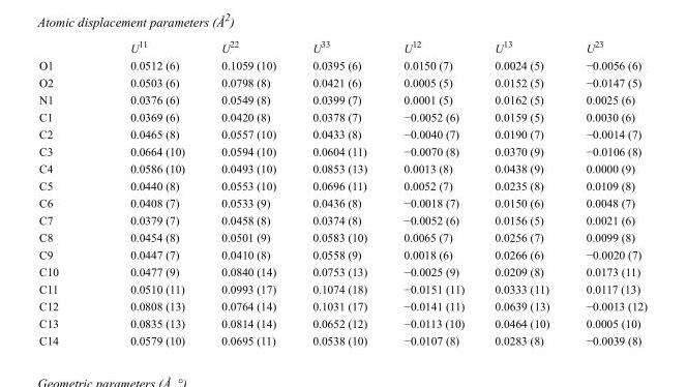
<table><thead><tr><td></td><td>U<sup>11</sup></td><td>U<sup>22</sup></td><td>U<sup>33</sup></td><td>U<sup>12</sup></td><td>U<sup>13</sup></td><td>U<sup>23</sup></td></tr></thead><tbody><tr><td>O1</td><td>0.0512 (6)</td><td>0.1059 (10)</td><td>0.0395 (6)</td><td>0.0150 (7)</td><td>0.0024 (5)</td><td>−0.0056 (6)</td></tr><tr><td>O2</td><td>0.0503 (6)</td><td>0.0798 (8)</td><td>0.0421 (6)</td><td>0.0005 (5)</td><td>0.0152 (5)</td><td>−0.0147 (5)</td></tr><tr><td>N1</td><td>0.0376 (6)</td><td>0.0549 (8)</td><td>0.0399 (7)</td><td>0.0001 (5)</td><td>0.0162 (5)</td><td>0.0025 (6)</td></tr><tr><td>C1</td><td>0.0369 (6)</td><td>0.0420 (8)</td><td>0.0378 (7)</td><td>−0.0052 (6)</td><td>0.0159 (5)</td><td>0.0030 (6)</td></tr><tr><td>C2</td><td>0.0465 (8)</td><td>0.0557 (10)</td><td>0.0433 (8)</td><td>−0.0040 (7)</td><td>0.0190 (7)</td><td>−0.0014 (7)</td></tr><tr><td>C3</td><td>0.0664 (10)</td><td>0.0594 (10)</td><td>0.0604 (11)</td><td>−0.0070 (8)</td><td>0.0370 (9)</td><td>−0.0106 (8)</td></tr><tr><td>C4</td><td>0.0586 (10)</td><td>0.0493 (10)</td><td>0.0853 (13)</td><td>0.0013 (8)</td><td>0.0438 (9)</td><td>0.0000 (9)</td></tr><tr><td>C5</td><td>0.0440 (8)</td><td>0.0553 (10)</td><td>0.0696 (11)</td><td>0.0052 (7)</td><td>0.0235 (8)</td><td>0.0109 (8)</td></tr><tr><td>C6</td><td>0.0408 (7)</td><td>0.0533 (9)</td><td>0.0436 (8)</td><td>−0.0018 (7)</td><td>0.0150 (6)</td><td>0.0048 (7)</td></tr><tr><td>C7</td><td>0.0379 (7)</td><td>0.0458 (8)</td><td>0.0374 (8)</td><td>−0.0052 (6)</td><td>0.0156 (5)</td><td>0.0021 (6)</td></tr><tr><td>C8</td><td>0.0454 (8)</td><td>0.0501 (9)</td><td>0.0583 (10)</td><td>0.0065 (7)</td><td>0.0256 (7)</td><td>0.0099 (8)</td></tr><tr><td>C9</td><td>0.0447 (7)</td><td>0.0410 (8)</td><td>0.0558 (9)</td><td>0.0018 (6)</td><td>0.0266 (6)</td><td>−0.0020 (7)</td></tr><tr><td>C10</td><td>0.0477 (9)</td><td>0.0840 (14)</td><td>0.0753 (13)</td><td>−0.0025 (9)</td><td>0.0209 (8)</td><td>0.0173 (11)</td></tr><tr><td>C11</td><td>0.0510 (11)</td><td>0.0993 (17)</td><td>0.1074 (18)</td><td>−0.0151 (11)</td><td>0.0333 (11)</td><td>0.0117 (13)</td></tr><tr><td>C12</td><td>0.0808 (13)</td><td>0.0764 (14)</td><td>0.1031 (17)</td><td>−0.0141 (11)</td><td>0.0639 (13)</td><td>−0.0013 (12)</td></tr><tr><td>C13</td><td>0.0835 (13)</td><td>0.0814 (14)</td><td>0.0652 (12)</td><td>−0.0113 (10)</td><td>0.0464 (10)</td><td>0.0005 (10)</td></tr><tr><td>C14</td><td>0.0579 (10)</td><td>0.0695 (11)</td><td>0.0538 (10)</td><td>−0.0107 (8)</td><td>0.0283 (8)</td><td>−0.0039 (8)</td></tr></tbody></table>